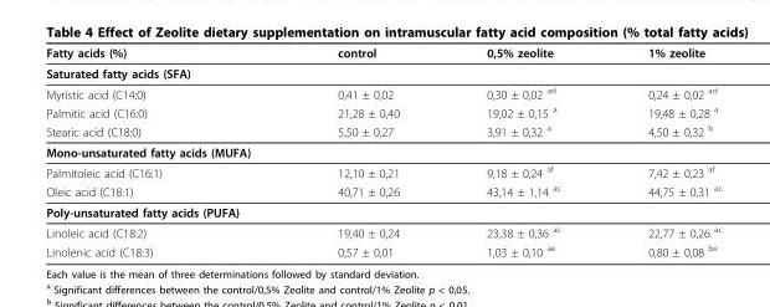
<table><thead><tr><td>Fatty acids (%)</td><td>control</td><td>0,5% zeolite</td><td>1% zeolite</td></tr></thead><tbody><tr><td colspan="4">Saturated fatty acids (SFA)</td></tr><tr><td>Myristic acid (C14:0)</td><td>0,41 ± 0,02</td><td>0,30 ± 0,02 <sup>ad</sup></td><td>0,24 ± 0,02 <sup>ad</sup></td></tr><tr><td>Palmitic acid (C16:0)</td><td>21,28 ± 0,40</td><td>19,02 ± 0,15 <sup>a</sup></td><td>19,48 ± 0,28 <sup>a</sup></td></tr><tr><td>Stearic acid (C18:0)</td><td>5,50 ± 0,27</td><td>3,91 ± 0,32 <sup>a</sup></td><td>4,50 ± 0,32 <sup>b</sup></td></tr><tr><td colspan="4">Mono-unsaturated fatty acids (MUFA)</td></tr><tr><td>Palmitoleic acid (C16:1)</td><td>12,10 ± 0,21</td><td>9,18 ± 0,24 <sup>af</sup></td><td>7,42 ± 0,23 <sup>af</sup></td></tr><tr><td>Oleic acid (C18:1)</td><td>40,71 ± 0,26</td><td>43,14 ± 1,14 <sup>ac</sup></td><td>44,75 ± 0,31 <sup>ac</sup></td></tr><tr><td colspan="4">Poly-unsaturated fatty acids (PUFA)</td></tr><tr><td>Linoleic acid (C18:2)</td><td>19,40 ± 0,24</td><td>23,38 ± 0,36 <sup>ac</sup></td><td>22,77 ± 0,26 <sup>ac</sup></td></tr><tr><td>Linolenic acid (C18:3)</td><td>0,57 ± 0,01</td><td>1,03 ± 0,10 <sup>ae</sup></td><td>0,80 ± 0,08 <sup>be</sup></td></tr></tbody></table>